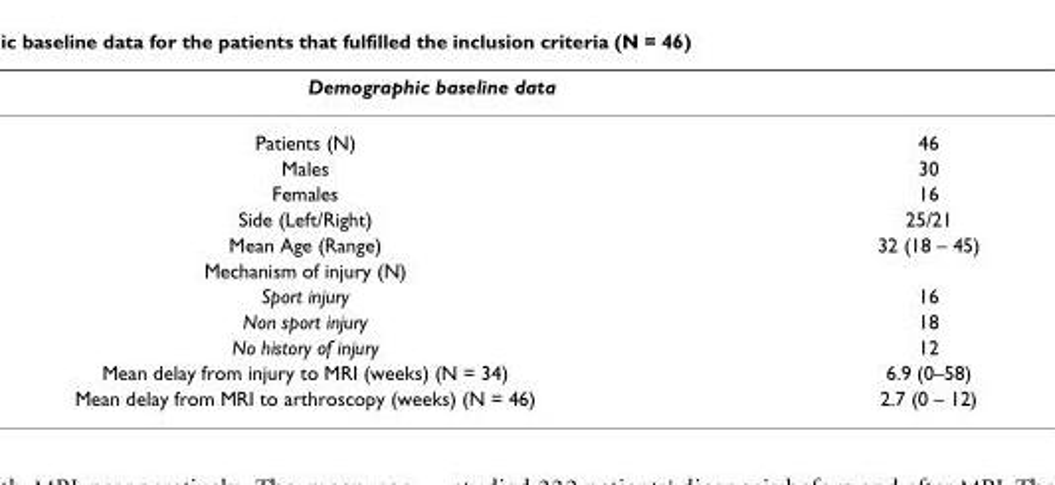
<table><thead><tr><td colspan="2">Demographic baseline data</td></tr><tr><td>Patients (N)</td><td>46</td></tr></thead><tbody><tr><td>Males</td><td>30</td></tr><tr><td>Females</td><td>16</td></tr><tr><td>Side (Left/Right)</td><td>25/21</td></tr><tr><td>Mean Age (Range)</td><td>32 (18 – 45)</td></tr><tr><td colspan="2">Mechanism of injury (N)</td></tr><tr><td>Sport injury</td><td>16</td></tr><tr><td>Non sport injury</td><td>18</td></tr><tr><td>No history of injury</td><td>12</td></tr><tr><td>Mean delay from injury to MRI (weeks) (N = 34)</td><td>6.9 (0–58)</td></tr><tr><td>Mean delay from MRI to arthroscopy (weeks) (N = 46)</td><td>2.7 (0 – 12)</td></tr></tbody></table>